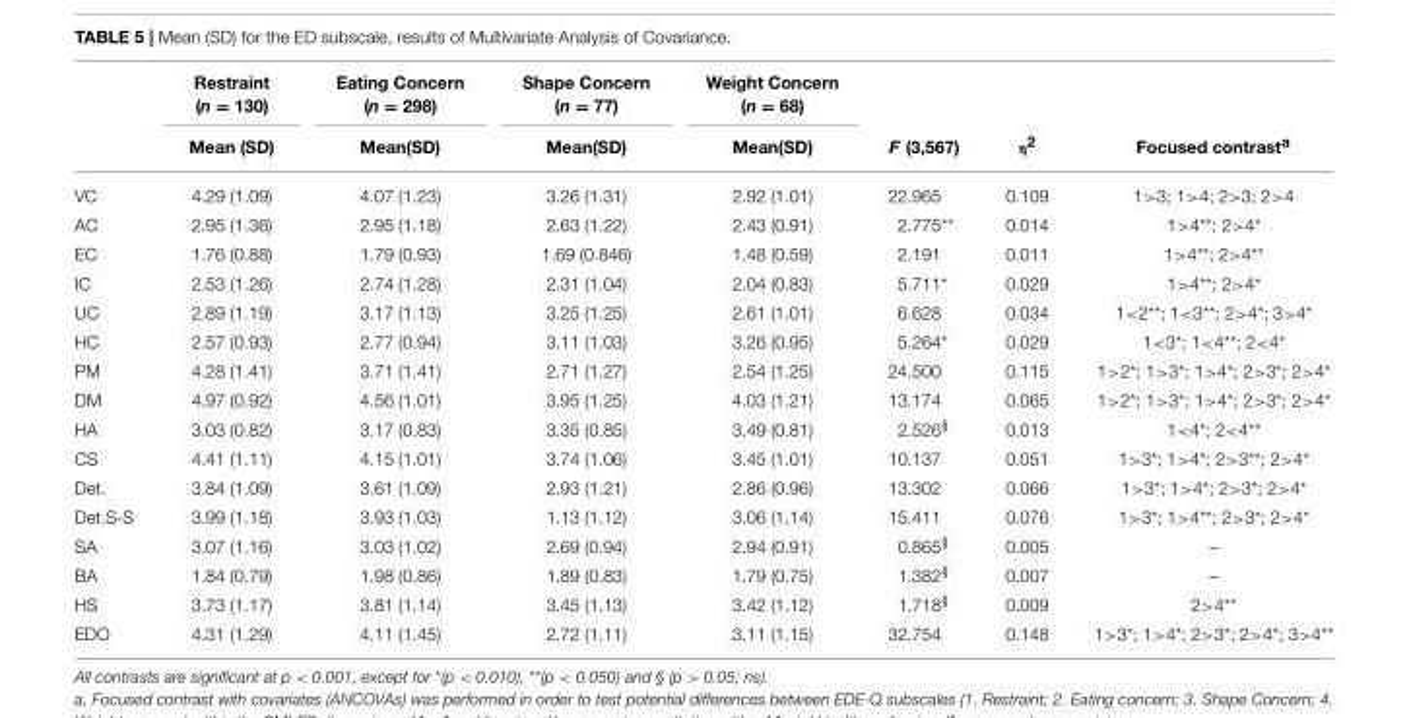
<table><thead><tr><td rowspan="2"></td><td rowspan="2">Restraint (n = 130) Mean (SD)</td><td rowspan="2">Eating Concern (n = 298) Mean(SD)</td><td rowspan="2">Shape Concern (n = 77) Mean(SD)</td><td rowspan="2">Weight Concern (n = 68) Mean(SD)</td><td rowspan="2">F (3,567)</td><td rowspan="2">η<sup>2</sup></td><td rowspan="2">Focused contrast<sup>a</sup></td></tr><tr></tr></thead><tbody><tr><td>VC</td><td>4.29 (1.09)</td><td>4.07 (1.23)</td><td>3.26 (1.31)</td><td>2.92 (1.01)</td><td>22.965</td><td>0.109</td><td>1&gt;3; 1&gt;4; 2&gt;3; 2&gt;4</td></tr><tr><td>AC</td><td>2.95 (1.36)</td><td>2.95 (1.18)</td><td>2.63 (1.22)</td><td>2.43 (0.91)</td><td>2.775**</td><td>0.014</td><td>1&gt;4**; 2&gt;4*</td></tr><tr><td>EC</td><td>1.76 (0.88)</td><td>1.79 (0.93)</td><td>1.69 (0.846)</td><td>1.48 (0.59)</td><td>2.191</td><td>0.011</td><td>1&gt;4**; 2&gt;4**</td></tr><tr><td>IC</td><td>2.53 (1.26)</td><td>2.74 (1.28)</td><td>2.31 (1.04)</td><td>2.04 (0.83)</td><td>5.711*</td><td>0.029</td><td>1&gt;4**; 2&gt;4*</td></tr><tr><td>UC</td><td>2.89 (1.19)</td><td>3.17 (1.13)</td><td>3.25 (1.25)</td><td>2.61 (1.01)</td><td>6.628</td><td>0.034</td><td>1&lt;2**; 1&lt;3**; 2&gt;4*; 3&gt;4*</td></tr><tr><td>HC</td><td>2.57 (0.93)</td><td>2.77 (0.94)</td><td>3.11 (1.03)</td><td>3.26 (0.95)</td><td>5.264*</td><td>0.029</td><td>1&lt;3*; 1&lt;4**; 2&lt;4*</td></tr><tr><td>PM</td><td>4.28 (1.41)</td><td>3.71 (1.41)</td><td>2.71 (1.27)</td><td>2.54 (1.25)</td><td>24.500</td><td>0.115</td><td>1&gt;2*; 1&gt;3*; 1&gt;4*; 2&gt;3*; 2&gt;4*</td></tr><tr><td>DM</td><td>4.97 (0.92)</td><td>4.56 (1.01)</td><td>3.95 (1.25)</td><td>4.03 (1.21)</td><td>13.174</td><td>0.065</td><td>1&gt;2*; 1&gt;3*; 1&gt;4*; 2&gt;3*; 2&gt;4*</td></tr><tr><td>HA</td><td>3.03 (0.82)</td><td>3.17 (0.83)</td><td>3.35 (0.85)</td><td>3.49 (0.81)</td><td>2.526<sup>§</sup></td><td>0.013</td><td>1&lt;4*; 2&lt;4**</td></tr><tr><td>CS</td><td>4.41 (1.11)</td><td>4.15 (1.01)</td><td>3.74 (1.06)</td><td>3.45 (1.01)</td><td>10.137</td><td>0.051</td><td>1&gt;3*; 1&gt;4*; 2&gt;3**; 2&gt;4*</td></tr><tr><td>Det.</td><td>3.84 (1.09)</td><td>3.61 (1.09)</td><td>2.93 (1.21)</td><td>2.86 (0.96)</td><td>13.302</td><td>0.066</td><td>1&gt;3*; 1&gt;4*; 2&gt;3*; 2&gt;4*</td></tr><tr><td>Det.S-S</td><td>3.99 (1.18)</td><td>3.93 (1.03)</td><td>1.13 (1.12)</td><td>3.06 (1.14)</td><td>15.411</td><td>0.076</td><td>1&gt;3*; 1&gt;4**; 2&gt;3*; 2&gt;4*</td></tr><tr><td>SA</td><td>3.07 (1.16)</td><td>3.03 (1.02)</td><td>2.69 (0.94)</td><td>2.94 (0.91)</td><td>0.865<sup>§</sup></td><td>0.005</td><td>–</td></tr><tr><td>BA</td><td>1.84 (0.79)</td><td>1.98 (0.86)</td><td>1.89 (0.83)</td><td>1.79 (0.75)</td><td>1.382<sup>§</sup></td><td>0.007</td><td>–</td></tr><tr><td>HS</td><td>3.73 (1.17)</td><td>3.81 (1.14)</td><td>3.45 (1.13)</td><td>3.42 (1.12)</td><td>1.718<sup>§</sup></td><td>0.009</td><td>2&gt;4**</td></tr><tr><td>EDO</td><td>4.31 (1.29)</td><td>4.11 (1.45)</td><td>2.72 (1.11)</td><td>3.11 (1.15)</td><td>32.754</td><td>0.148</td><td>1&gt;3*; 1&gt;4*; 2&gt;3*; 2&gt;4*; 3&gt;4**</td></tr></tbody></table>